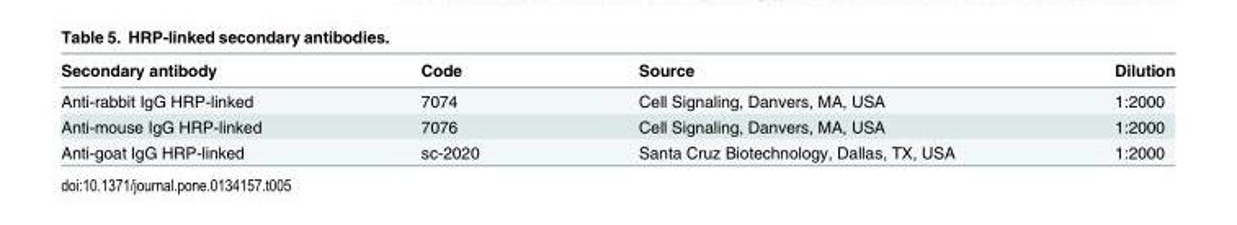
<table><thead><tr><td>Secondary antibody</td><td>Code</td><td>Source</td><td>Dilution</td></tr></thead><tbody><tr><td>Anti-rabbit IgG HRP-linked</td><td>7074</td><td>Cell Signaling, Danvers, MA, USA</td><td>1:2000</td></tr><tr><td>Anti-mouse IgG HRP-linked</td><td>7076</td><td>Cell Signaling, Danvers, MA, USA</td><td>1:2000</td></tr><tr><td>Anti-goat IgG HRP-linked</td><td>sc-2020</td><td>Santa Cruz Biotechnology, Dallas, TX, USA</td><td>1:2000</td></tr></tbody></table>